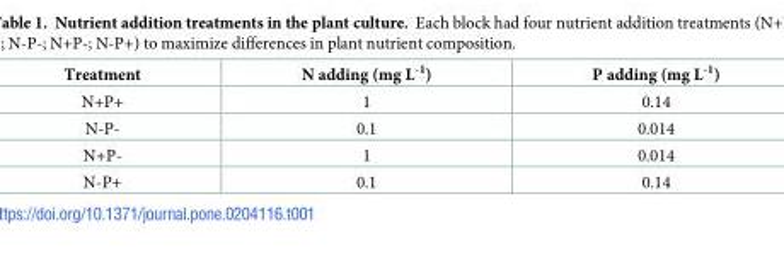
<table><thead><tr><td>Treatment</td><td>N adding (mg L<sup>-1</sup>)</td><td>P adding (mg L<sup>-1</sup>)</td></tr></thead><tbody><tr><td>N+P+</td><td>1</td><td>0.14</td></tr><tr><td>N-P-</td><td>0.1</td><td>0.014</td></tr><tr><td>N+P-</td><td>1</td><td>0.014</td></tr><tr><td>N-P+</td><td>0.1</td><td>0.14</td></tr></tbody></table>